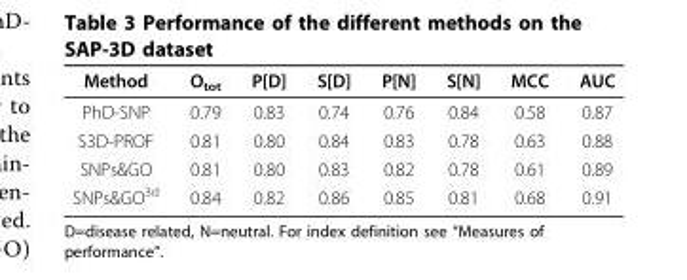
<table><thead><tr><td>Method</td><td>O<sub>tot</sub></td><td>P[D]</td><td>S[D]</td><td>P[N]</td><td>S[N]</td><td>MCC</td><td>AUC</td></tr></thead><tbody><tr><td>PhD-SNP</td><td>0.79</td><td>0.83</td><td>0.74</td><td>0.76</td><td>0.84</td><td>0.58</td><td>0.87</td></tr><tr><td>S3D-PROF</td><td>0.81</td><td>0.80</td><td>0.84</td><td>0.83</td><td>0.78</td><td>0.63</td><td>0.88</td></tr><tr><td>SNPs&amp;GO</td><td>0.81</td><td>0.80</td><td>0.83</td><td>0.82</td><td>0.78</td><td>0.61</td><td>0.89</td></tr><tr><td>SNPs&amp;GO<sup>3d</sup></td><td>0.84</td><td>0.82</td><td>0.86</td><td>0.85</td><td>0.81</td><td>0.68</td><td>0.91</td></tr></tbody></table>